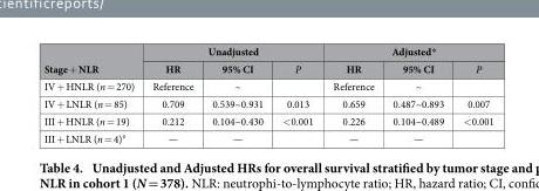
<table><thead><tr><td rowspan="2">Stage + NLR</td><td colspan="3">Unadjusted</td><td colspan="3">Adjusted*</td></tr><tr><td>HR</td><td>95% CI</td><td>P</td><td>HR</td><td>95% CI</td><td>P</td></tr></thead><tbody><tr><td>IV + HNLR (n = 270)</td><td>Reference</td><td>~</td><td></td><td>Reference</td><td>~</td><td></td></tr><tr><td>IV + LNLR (n = 85)</td><td>0.709</td><td>0.539~0.931</td><td>0.013</td><td>0.659</td><td>0.487~0.893</td><td>0.007</td></tr><tr><td>III + HNLR (n = 19)</td><td>0.212</td><td>0.104~0.430</td><td>&lt; 0.001</td><td>0.226</td><td>0.104~0.489</td><td>&lt; 0.001</td></tr><tr><td>III + LNLR (n = 4)#</td><td>—</td><td>—</td><td></td><td>—</td><td>—</td><td></td></tr></tbody></table>